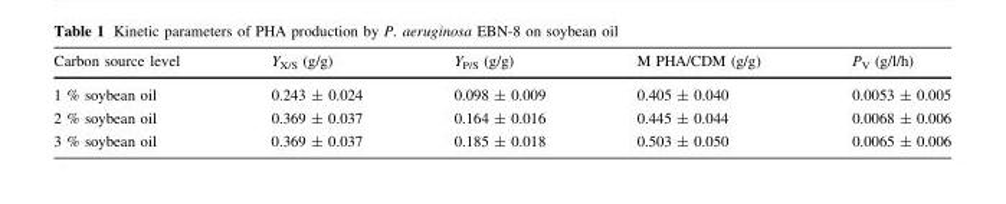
<table><thead><tr><td>Carbon source level</td><td>Y<sub>X/S</sub> (g/g)</td><td>Y<sub>P/S</sub> (g/g)</td><td>M PHA/CDM (g/g)</td><td>P<sub>V</sub> (g/l/h)</td></tr></thead><tbody><tr><td>1 % soybean oil</td><td>0.243 ± 0.024</td><td>0.098 ± 0.009</td><td>0.405 ± 0.040</td><td>0.0053 ± 0.005</td></tr><tr><td>2 % soybean oil</td><td>0.369 ± 0.037</td><td>0.164 ± 0.016</td><td>0.445 ± 0.044</td><td>0.0068 ± 0.006</td></tr><tr><td>3 % soybean oil</td><td>0.369 ± 0.037</td><td>0.185 ± 0.018</td><td>0.503 ± 0.050</td><td>0.0065 ± 0.006</td></tr></tbody></table>